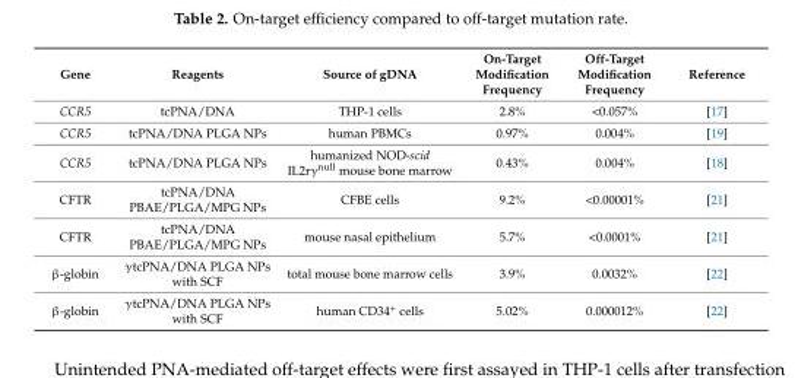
<table><thead><tr><td>Gene</td><td>Reagents</td><td>Source of gDNA</td><td>On-Target Modification Frequency</td><td>Off-Target Modification Frequency</td><td>Reference</td></tr></thead><tbody><tr><td>CCR5</td><td>tcPNA/DNA</td><td>THP-1 cells</td><td>2.8%</td><td>&lt;0.057%</td><td>[17]</td></tr><tr><td>CCR5</td><td>tcPNA/DNA PLGA NPs</td><td>human PBMCs</td><td>0.97%</td><td>0.004%</td><td>[19]</td></tr><tr><td>CCR5</td><td>tcPNA/DNA PLGA NPs</td><td>humanized NOD-scid IL2rγ<sup>null</sup> mouse bone marrow</td><td>0.43%</td><td>0.004%</td><td>[18]</td></tr><tr><td>CFTR</td><td>tcPNA/DNA PBAE/PLGA/MPG NPs</td><td>CFBE cells</td><td>9.2%</td><td>&lt;0.00001%</td><td>[21]</td></tr><tr><td>CFTR</td><td>tcPNA/DNA PBAE/PLGA/MPG NPs</td><td>mouse nasal epithelium</td><td>5.7%</td><td>&lt;0.0001%</td><td>[21]</td></tr><tr><td>β-globin</td><td>γtcPNA/DNA PLGA NPs with SCF</td><td>total mouse bone marrow cells</td><td>3.9%</td><td>0.0032%</td><td>[22]</td></tr><tr><td>β-globin</td><td>γtcPNA/DNA PLGA NPs with SCF</td><td>human CD34<sup>+</sup> cells</td><td>5.02%</td><td>0.000012%</td><td>[22]</td></tr></tbody></table>